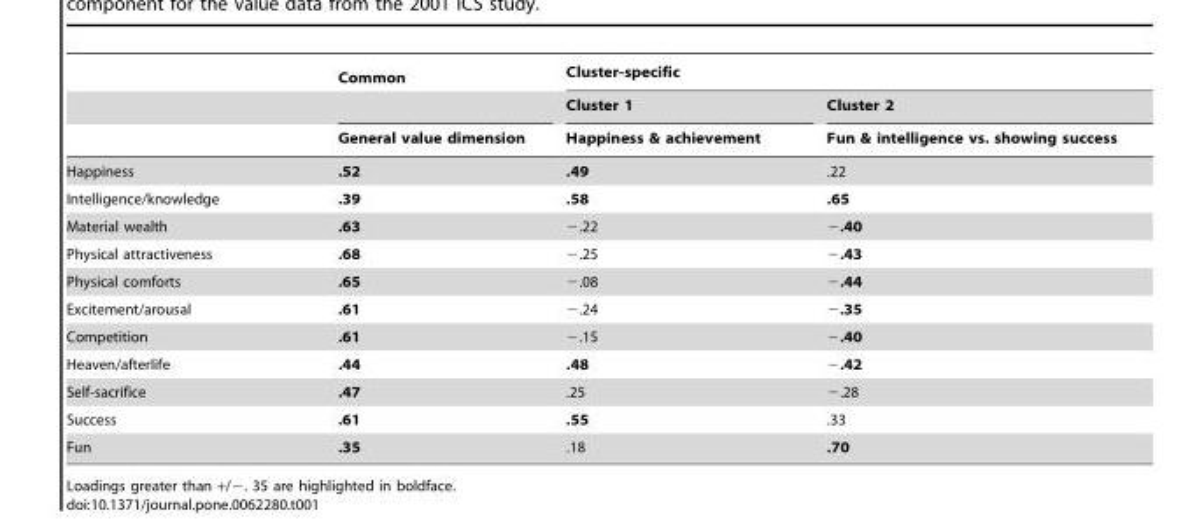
<table><thead><tr><td rowspan="3"></td><td rowspan="3">Common General value dimension</td><td colspan="2">Cluster-specific</td></tr><tr><td rowspan="2">Cluster 1 Happiness &amp; achievement</td><td rowspan="2">Cluster 2 Fun &amp; intelligence vs. showing success</td></tr><tr></tr></thead><tbody><tr><td>Happiness</td><td>.52</td><td>.49</td><td>.22</td></tr><tr><td>Intelligence/knowledge</td><td>.39</td><td>.58</td><td>.65</td></tr><tr><td>Material wealth</td><td>.63</td><td>−.22</td><td>−.40</td></tr><tr><td>Physical attractiveness</td><td>.68</td><td>−.25</td><td>−.43</td></tr><tr><td>Physical comforts</td><td>.65</td><td>−.08</td><td>−.44</td></tr><tr><td>Excitement/arousal</td><td>.61</td><td>−.24</td><td>−.35</td></tr><tr><td>Competition</td><td>.61</td><td>−.15</td><td>−.40</td></tr><tr><td>Heaven/afterlife</td><td>.44</td><td>.48</td><td>−.42</td></tr><tr><td>Self-sacrifice</td><td>.47</td><td>.25</td><td>−.28</td></tr><tr><td>Success</td><td>.61</td><td>.55</td><td>.33</td></tr><tr><td>Fun</td><td>.35</td><td>.18</td><td>.70</td></tr></tbody></table>